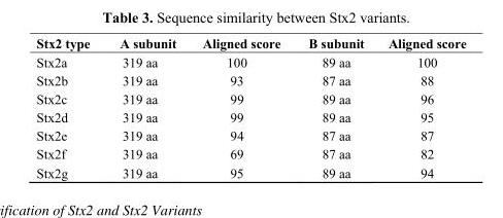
<table><thead><tr><td>Stx2 type</td><td>A subunit</td><td>Aligned score</td><td>B subunit</td><td>Aligned score</td></tr></thead><tbody><tr><td>Stx2a</td><td>319 aa</td><td>100</td><td>89 aa</td><td>100</td></tr><tr><td>Stx2b</td><td>319 aa</td><td>93</td><td>87 aa</td><td>88</td></tr><tr><td>Stx2c</td><td>319 aa</td><td>99</td><td>89 aa</td><td>96</td></tr><tr><td>Stx2d</td><td>319 aa</td><td>99</td><td>89 aa</td><td>95</td></tr><tr><td>Stx2e</td><td>319 aa</td><td>94</td><td>87 aa</td><td>87</td></tr><tr><td>Stx2f</td><td>319 aa</td><td>69</td><td>87 aa</td><td>82</td></tr><tr><td>Stx2g</td><td>319 aa</td><td>95</td><td>89 aa</td><td>94</td></tr></tbody></table>